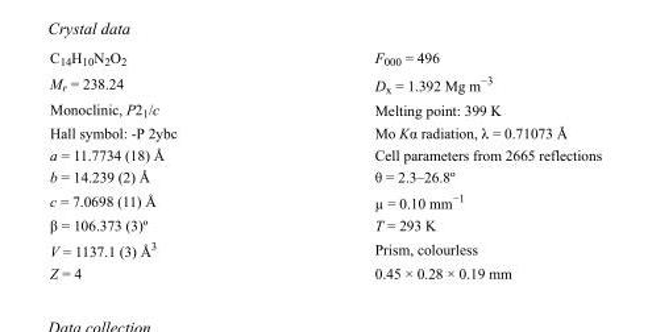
<table><tbody><tr><td>C<sub>14</sub>H<sub>10</sub>N<sub>2</sub>O<sub>2</sub></td><td>F000 = 496</td></tr><tr><td>M<sub>r</sub> = 238.24</td><td>D<sub>x</sub> = 1.392 Mg m<sup>−3</sup></td></tr><tr><td>Monoclinic, P2<sub>1</sub>/c</td><td>Melting point: 399 K</td></tr><tr><td>Hall symbol: -P 2ybc</td><td>Mo Kα radiation, λ = 0.71073 Å</td></tr><tr><td>a = 11.7734 (18) Å</td><td>Cell parameters from 2665 reflections</td></tr><tr><td>b = 14.239 (2) Å</td><td>θ = 2.3–26.8º</td></tr><tr><td>c = 7.0698 (11) Å</td><td>µ = 0.10 mm<sup>−1</sup></td></tr><tr><td>β = 106.373 (3)º</td><td>T = 293 K</td></tr><tr><td>V = 1137.1 (3) Å<sup>3</sup></td><td>Prism, colourless</td></tr><tr><td>Z = 4</td><td>0.45 × 0.28 × 0.19 mm</td></tr></tbody></table>